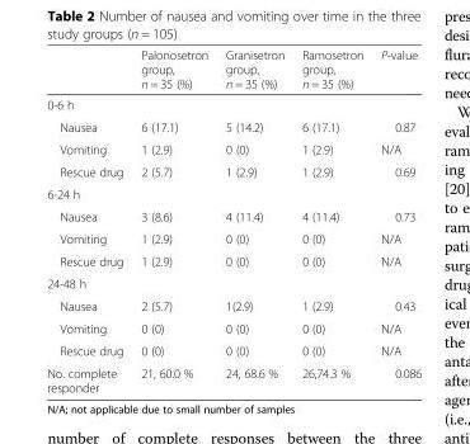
<table><thead><tr><td></td><td>Palonosetron group, n = 35 (%)</td><td>Granisetron group, n = 35 (%)</td><td>Ramosetron group, n = 35 (%)</td><td>P-value</td></tr></thead><tbody><tr><td colspan="5">0-6 h</td></tr><tr><td>Nausea</td><td>6 (17.1)</td><td>5 (14.2)</td><td>6 (17.1)</td><td>0.87</td></tr><tr><td>Vomiting</td><td>1 (2.9)</td><td>0 (0)</td><td>1 (2.9)</td><td>N/A</td></tr><tr><td>Rescue drug</td><td>2 (5.7)</td><td>1 (2.9)</td><td>1 (2.9)</td><td>0.69</td></tr><tr><td colspan="5">6-24 h</td></tr><tr><td>Nausea</td><td>3 (8.6)</td><td>4 (11.4)</td><td>4 (11.4)</td><td>0.73</td></tr><tr><td>Vomiting</td><td>1 (2.9)</td><td>0 (0)</td><td>0 (0)</td><td>N/A</td></tr><tr><td>Rescue drug</td><td>1 (2.9)</td><td>0 (0)</td><td>0 (0)</td><td>N/A</td></tr><tr><td colspan="5">24-48 h</td></tr><tr><td>Nausea</td><td>2 (5.7)</td><td>1(2.9)</td><td>1 (2.9)</td><td>0.43</td></tr><tr><td>Vomiting</td><td>0 (0)</td><td>0 (0)</td><td>0 (0)</td><td>N/A</td></tr><tr><td>Rescue drug</td><td>0 (0)</td><td>0 (0)</td><td>0 (0)</td><td>N/A</td></tr><tr><td>No. complete responder</td><td>21, 60.0 %</td><td>24, 68.6 %</td><td>26,74.3 %</td><td>0.086</td></tr></tbody></table>